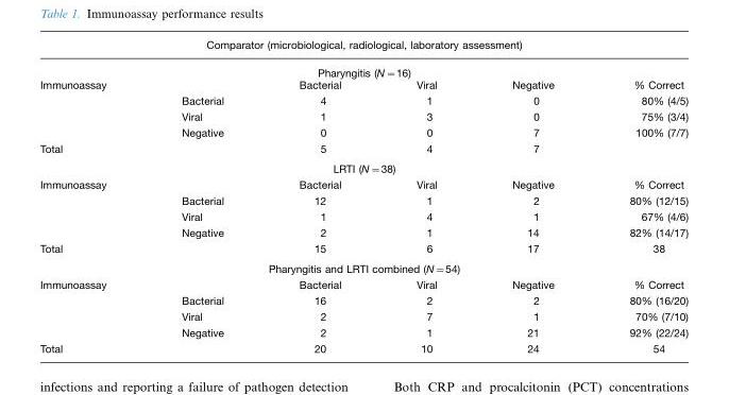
<table><thead><tr><td rowspan="2" colspan="6">Comparator (microbiological, radiological, laboratory assessment) Pharyngitis (N=16)</td></tr><tr></tr><tr><td>Immunoassay</td><td></td><td>Bacterial</td><td>Viral</td><td>Negative</td><td>% Correct</td></tr></thead><tbody><tr><td></td><td>Bacterial</td><td>4</td><td>1</td><td>0</td><td>80% (4/5)</td></tr><tr><td></td><td>Viral</td><td>1</td><td>3</td><td>0</td><td>75% (3/4)</td></tr><tr><td></td><td>Negative</td><td>0</td><td>0</td><td>7</td><td>100% (7/7)</td></tr><tr><td>Total</td><td></td><td>5</td><td>4</td><td>7</td><td></td></tr><tr><td colspan="6">LRTI (N=38)</td></tr><tr><td rowspan="4">Immunoassay</td><td></td><td>Bacterial</td><td>Viral</td><td>Negative</td><td>% Correct</td></tr><tr><td>Bacterial</td><td>12</td><td>1</td><td>2</td><td>80% (12/15)</td></tr><tr><td>Viral</td><td>1</td><td>4</td><td>1</td><td>67% (4/6)</td></tr><tr><td>Negative</td><td>2</td><td>1</td><td>14</td><td>82% (14/17)</td></tr><tr><td>Total</td><td></td><td>15</td><td>6</td><td>17</td><td>38</td></tr><tr><td colspan="6">Pharyngitis and LRTI combined (N=54)</td></tr><tr><td rowspan="4">Immunoassay</td><td></td><td>Bacterial</td><td>Viral</td><td>Negative</td><td>% Correct</td></tr><tr><td>Bacterial</td><td>16</td><td>2</td><td>2</td><td>80% (16/20)</td></tr><tr><td>Viral</td><td>2</td><td>7</td><td>1</td><td>70% (7/10)</td></tr><tr><td>Negative</td><td>2</td><td>1</td><td>21</td><td>92% (22/24)</td></tr><tr><td>Total</td><td></td><td>20</td><td>10</td><td>24</td><td>54</td></tr></tbody></table>